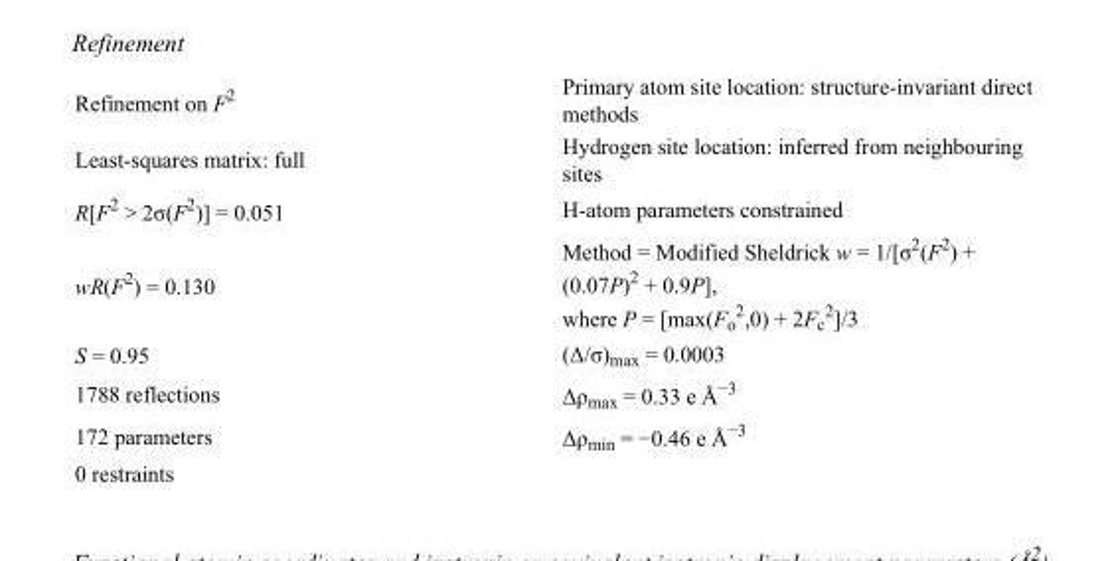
<table><tbody><tr><td>Refinement on F<sup>2</sup></td><td>Primary atom site location: structure-invariant direct methods</td></tr><tr><td>Least-squares matrix: full</td><td>Hydrogen site location: inferred from neighbouring sites</td></tr><tr><td>R[F<sup>2</sup> &gt; 2σ(F<sup>2</sup>)] = 0.051</td><td>H-atom parameters constrained</td></tr><tr><td>wR(F<sup>2</sup>) = 0.130</td><td>Method = Modified Sheldrick w = 1/[σ<sup>2</sup>(F<sup>2</sup>) + (0.07P)<sup>2</sup> + 0.9P], where P = [max(F<sub>o</sub> <sup>2</sup>,0) + 2F<sub>c</sub> <sup>2</sup>]/3</td></tr><tr><td>S = 0.95</td><td>(Δ/σ)<sub>max</sub> = 0.0003</td></tr><tr><td>1788 reflections</td><td>Δρ<sub>max</sub> = 0.33 e Å<sup>−3</sup></td></tr><tr><td>172 parameters</td><td>Δρ<sub>min</sub> = −0.46 e Å<sup>−3</sup></td></tr><tr><td>0 restraints</td><td></td></tr></tbody></table>